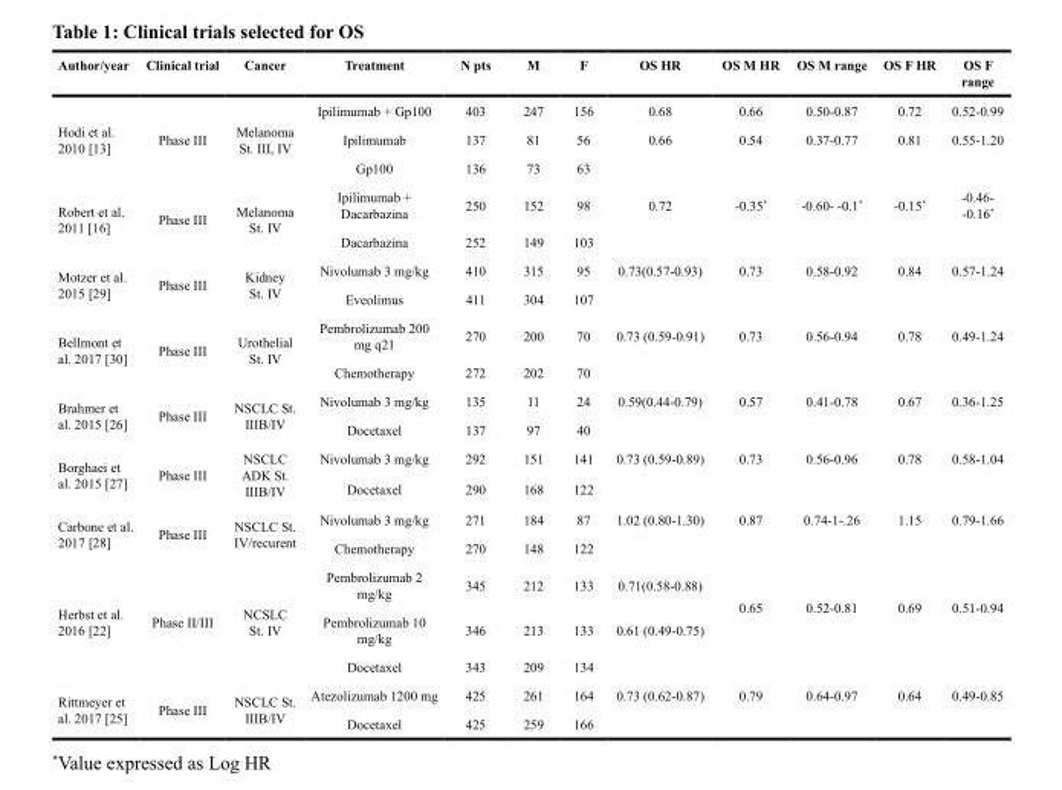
<table><thead><tr><td>Author/year</td><td>Clinical trial</td><td>Cancer</td><td>Treatment</td><td>N pts</td><td>M</td><td>F</td><td>OS HR</td><td>OS M HR</td><td>OS M range</td><td>OS F HR</td><td>OS F range</td></tr></thead><tbody><tr><td rowspan="3">Hodi et al. 2010 [13]</td><td rowspan="3">Phase III</td><td rowspan="3">Melanoma St. III, IV</td><td>Ipilimumab + Gp100</td><td>403</td><td>247</td><td>156</td><td>0.68</td><td>0.66</td><td>0.50-0.87</td><td>0.72</td><td>0.52-0.99</td></tr><tr><td>Ipilimumab</td><td>137</td><td>81</td><td>56</td><td>0.66</td><td>0.54</td><td>0.37-0.77</td><td>0.81</td><td>0.55-1.20</td></tr><tr><td>Gp100</td><td>136</td><td>73</td><td>63</td><td></td><td></td><td></td><td></td><td></td></tr><tr><td rowspan="2">Robert et al. 2011 [16]</td><td rowspan="2">Phase III</td><td rowspan="2">Melanoma St. IV</td><td>Ipilimumab + Dacarbazina</td><td>250</td><td>152</td><td>98</td><td>0.72</td><td>-0.35*</td><td>-0.60- -0.1*</td><td>-0.15*</td><td>-0.46- -0.16*</td></tr><tr><td>Dacarbazina</td><td>252</td><td>149</td><td>103</td><td></td><td></td><td></td><td></td><td></td></tr><tr><td rowspan="2">Motzer et al. 2015 [29]</td><td rowspan="2">Phase III</td><td rowspan="2">Kidney St. IV</td><td>Nivolumab 3 mg/kg</td><td>410</td><td>315</td><td>95</td><td>0.73(0.57-0.93)</td><td>0.73</td><td>0.58-0.92</td><td>0.84</td><td>0.57-1.24</td></tr><tr><td>Eveolimus</td><td>411</td><td>304</td><td>107</td><td></td><td></td><td></td><td></td><td></td></tr><tr><td rowspan="2">Bellmont et al. 2017 [30]</td><td rowspan="2">Phase III</td><td rowspan="2">Urothelial St. IV</td><td>Pembrolizumab 200 mg q21</td><td>270</td><td>200</td><td>70</td><td>0.73 (0.59-0.91)</td><td>0.73</td><td>0.56-0.94</td><td>0.78</td><td>0.49-1.24</td></tr><tr><td>Chemotherapy</td><td>272</td><td>202</td><td>70</td><td></td><td></td><td></td><td></td><td></td></tr><tr><td rowspan="2">Brahmer et al. 2015 [26]</td><td rowspan="2">Phase III</td><td rowspan="2">NSCLC St. IIIB/IV</td><td>Nivolumab 3 mg/kg</td><td>135</td><td>11</td><td>24</td><td>0.59(0.44-0.79)</td><td>0.57</td><td>0.41-0.78</td><td>0.67</td><td>0.36-1.25</td></tr><tr><td>Docetaxel</td><td>137</td><td>97</td><td>40</td><td></td><td></td><td></td><td></td><td></td></tr><tr><td rowspan="2">Borghaei et al. 2015 [27]</td><td rowspan="2">Phase III</td><td rowspan="2">NSCLC ADK St. IIIB/IV</td><td>Nivolumab 3 mg/kg</td><td>292</td><td>151</td><td>141</td><td>0.73 (0.59-0.89)</td><td>0.73</td><td>0.56-0.96</td><td>0.78</td><td>0.58-1.04</td></tr><tr><td>Docetaxel</td><td>290</td><td>168</td><td>122</td><td></td><td></td><td></td><td></td><td></td></tr><tr><td rowspan="2">Carbone et al. 2017 [28]</td><td rowspan="2">Phase III</td><td rowspan="2">NSCLC St. IV/recurent</td><td>Nivolumab 3 mg/kg</td><td>271</td><td>184</td><td>87</td><td>1.02 (0.80-1.30)</td><td>0.87</td><td>0.74-1-.26</td><td>1.15</td><td>0.79-1.66</td></tr><tr><td>Chemotherapy</td><td>270</td><td>148</td><td>122</td><td></td><td></td><td></td><td></td><td></td></tr><tr><td rowspan="3">Herbst et al. 2016 [22]</td><td rowspan="3">Phase II/III</td><td rowspan="3">NCSLC St. IV</td><td>Pembrolizumab 2 mg/kg</td><td>345</td><td>212</td><td>133</td><td>0.71(0.58-0.88)</td><td rowspan="2">0.65</td><td rowspan="2">0.52-0.81</td><td rowspan="2">0.69</td><td rowspan="2">0.51-0.94</td></tr><tr><td>Pembrolizumab 10 mg/kg</td><td>346</td><td>213</td><td>133</td><td>0.61 (0.49-0.75)</td></tr><tr><td>Docetaxel</td><td>343</td><td>209</td><td>134</td><td></td><td></td><td></td><td></td><td></td></tr><tr><td rowspan="2">Rittmeyer et al. 2017 [25]</td><td rowspan="2">Phase III</td><td rowspan="2">NSCLC St. IIIB/IV</td><td>Atezolizumab 1200 mg</td><td>425</td><td>261</td><td>164</td><td>0.73 (0.62-0.87)</td><td>0.79</td><td>0.64-0.97</td><td>0.64</td><td>0.49-0.85</td></tr><tr><td>Docetaxel</td><td>425</td><td>259</td><td>166</td><td></td><td></td><td></td><td></td><td></td></tr></tbody></table>